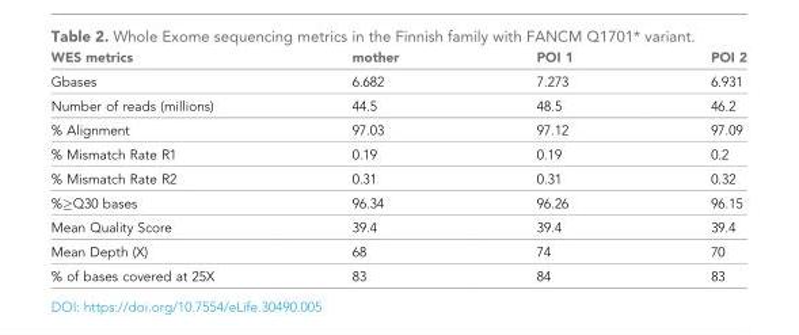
<table><thead><tr><td>WES metrics</td><td>mother</td><td>POI 1</td><td>POI 2</td></tr></thead><tbody><tr><td>Gbases</td><td>6.682</td><td>7.273</td><td>6.931</td></tr><tr><td>Number of reads (millions)</td><td>44.5</td><td>48.5</td><td>46.2</td></tr><tr><td>% Alignment</td><td>97.03</td><td>97.12</td><td>97.09</td></tr><tr><td>% Mismatch Rate R1</td><td>0.19</td><td>0.19</td><td>0.2</td></tr><tr><td>% Mismatch Rate R2</td><td>0.31</td><td>0.31</td><td>0.32</td></tr><tr><td>%≥Q30 bases</td><td>96.34</td><td>96.26</td><td>96.15</td></tr><tr><td>Mean Quality Score</td><td>39.4</td><td>39.4</td><td>39.4</td></tr><tr><td>Mean Depth (X)</td><td>68</td><td>74</td><td>70</td></tr><tr><td>% of bases covered at 25X</td><td>83</td><td>84</td><td>83</td></tr></tbody></table>